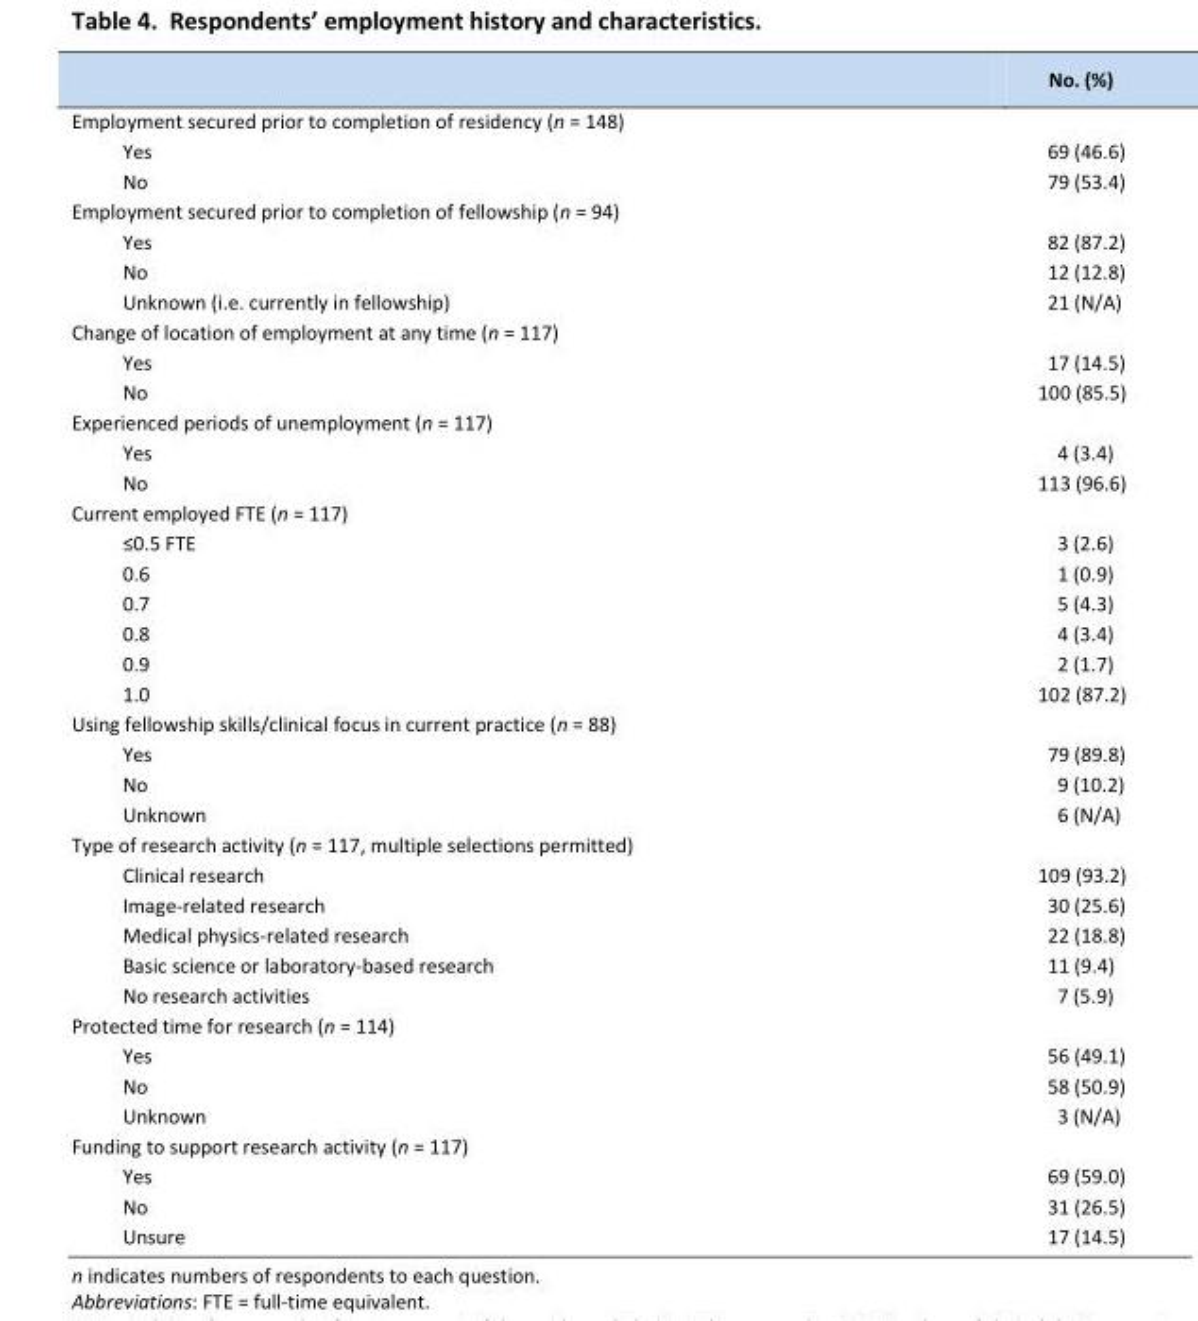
<table><thead><tr><td></td><td>No. (%)</td></tr></thead><tbody><tr><td colspan="2">Employment secured prior to completion of residency (n = 148)</td></tr><tr><td>Yes</td><td>69 (46.6)</td></tr><tr><td>No</td><td>79 (53.4)</td></tr><tr><td colspan="2">Employment secured prior to completion of fellowship (n = 94)</td></tr><tr><td>Yes</td><td>82 (87.2)</td></tr><tr><td>No</td><td>12 (12.8)</td></tr><tr><td>Unknown (i.e. currently in fellowship)</td><td>21 (N/A)</td></tr><tr><td colspan="2">Change of location of employment at any time (n = 117)</td></tr><tr><td>Yes</td><td>17 (14.5)</td></tr><tr><td>No</td><td>100 (85.5)</td></tr><tr><td colspan="2">Experienced periods of unemployment (n = 117)</td></tr><tr><td>Yes</td><td>4 (3.4)</td></tr><tr><td>No</td><td>113 (96.6)</td></tr><tr><td colspan="2">Current employed FTE (n = 117)</td></tr><tr><td>≤0.5 FTE</td><td>3 (2.6)</td></tr><tr><td>0.6</td><td>1 (0.9)</td></tr><tr><td>0.7</td><td>5 (4.3)</td></tr><tr><td>0.8</td><td>4 (3.4)</td></tr><tr><td>0.9</td><td>2 (1.7)</td></tr><tr><td>1.0</td><td>102 (87.2)</td></tr><tr><td colspan="2">Using fellowship skills/clinical focus in current practice (n = 88)</td></tr><tr><td>Yes</td><td>79 (89.8)</td></tr><tr><td>No</td><td>9 (10.2)</td></tr><tr><td>Unknown</td><td>6 (N/A)</td></tr><tr><td colspan="2">Type of research activity (n = 117, multiple selections permitted)</td></tr><tr><td>Clinical research</td><td>109 (93.2)</td></tr><tr><td>Image-related research</td><td>30 (25.6)</td></tr><tr><td>Medical physics-related research</td><td>22 (18.8)</td></tr><tr><td>Basic science or laboratory-based research</td><td>11 (9.4)</td></tr><tr><td>No research activities</td><td>7 (5.9)</td></tr><tr><td colspan="2">Protected time for research (n = 114)</td></tr><tr><td>Yes</td><td>56 (49.1)</td></tr><tr><td>No</td><td>58 (50.9)</td></tr><tr><td>Unknown</td><td>3 (N/A)</td></tr><tr><td colspan="2">Funding to support research activity (n = 117)</td></tr><tr><td>Yes</td><td>69 (59.0)</td></tr><tr><td>No</td><td>31 (26.5)</td></tr><tr><td>Unsure</td><td>17 (14.5)</td></tr></tbody></table>